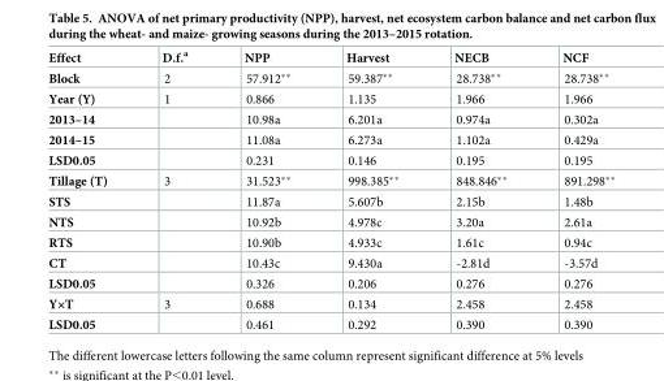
<table><thead><tr><td>Effect</td><td>D.f.<sup>a</sup></td><td>NPP</td><td>Harvest</td><td>NECB</td><td>NCF</td></tr></thead><tbody><tr><td>Block</td><td>2</td><td>57.912**</td><td>59.387**</td><td>28.738**</td><td>28.738**</td></tr><tr><td>Year (Y)</td><td>1</td><td>0.866</td><td>1.135</td><td>1.966</td><td>1.966</td></tr><tr><td>2013–14</td><td></td><td>10.98a</td><td>6.201a</td><td>0.974a</td><td>0.302a</td></tr><tr><td>2014–15</td><td></td><td>11.08a</td><td>6.273a</td><td>1.102a</td><td>0.429a</td></tr><tr><td>LSD0.05</td><td></td><td>0.231</td><td>0.146</td><td>0.195</td><td>0.195</td></tr><tr><td>Tillage (T)</td><td>3</td><td>31.523**</td><td>998.385**</td><td>848.846**</td><td>891.298**</td></tr><tr><td>STS</td><td></td><td>11.87a</td><td>5.607b</td><td>2.15b</td><td>1.48b</td></tr><tr><td>NTS</td><td></td><td>10.92b</td><td>4.978c</td><td>3.20a</td><td>2.61a</td></tr><tr><td>RTS</td><td></td><td>10.90b</td><td>4.933c</td><td>1.61c</td><td>0.94c</td></tr><tr><td>CT</td><td></td><td>10.43c</td><td>9.430a</td><td>-2.81d</td><td>-3.57d</td></tr><tr><td>LSD0.05</td><td></td><td>0.326</td><td>0.206</td><td>0.276</td><td>0.276</td></tr><tr><td>Y×T</td><td>3</td><td>0.688</td><td>0.134</td><td>2.458</td><td>2.458</td></tr><tr><td>LSD0.05</td><td></td><td>0.461</td><td>0.292</td><td>0.390</td><td>0.390</td></tr></tbody></table>